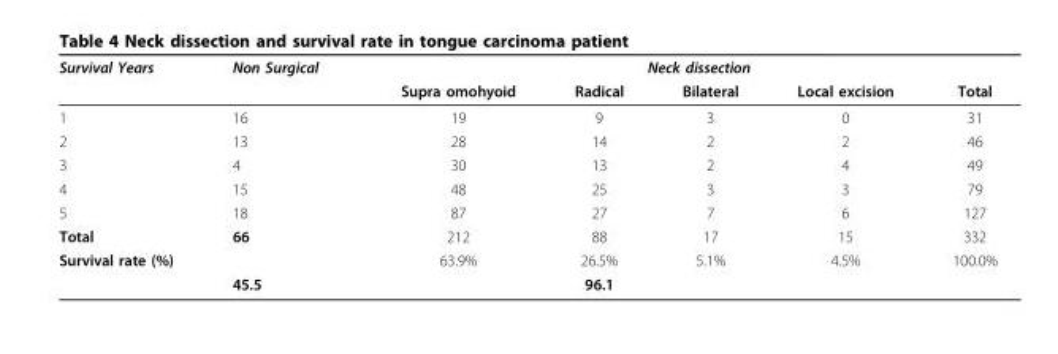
<table><thead><tr><td rowspan="2">Survival Years</td><td rowspan="2">Non Surgical</td><td colspan="5">Neck dissection</td></tr><tr><td>Supra omohyoid</td><td>Radical</td><td>Bilateral</td><td>Local excision</td><td>Total</td></tr></thead><tbody><tr><td>1</td><td>16</td><td>19</td><td>9</td><td>3</td><td>0</td><td>31</td></tr><tr><td>2</td><td>13</td><td>28</td><td>14</td><td>2</td><td>2</td><td>46</td></tr><tr><td>3</td><td>4</td><td>30</td><td>13</td><td>2</td><td>4</td><td>49</td></tr><tr><td>4</td><td>15</td><td>48</td><td>25</td><td>3</td><td>3</td><td>79</td></tr><tr><td>5</td><td>18</td><td>87</td><td>27</td><td>7</td><td>6</td><td>127</td></tr><tr><td>Total</td><td>66</td><td>212</td><td>88</td><td>17</td><td>15</td><td>332</td></tr><tr><td rowspan="2">Survival rate (%)</td><td></td><td>63.9%</td><td>26.5%</td><td>5.1%</td><td>4.5%</td><td>100.0%</td></tr><tr><td>45.5</td><td></td><td>96.1</td><td></td><td></td><td></td></tr></tbody></table>